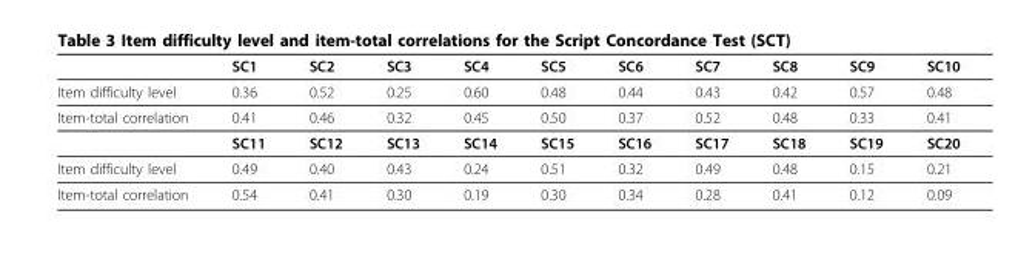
<table><thead><tr><td></td><td>SC1</td><td>SC2</td><td>SC3</td><td>SC4</td><td>SC5</td><td>SC6</td><td>SC7</td><td>SC8</td><td>SC9</td><td>SC10</td></tr></thead><tbody><tr><td>Item difficulty level</td><td>0.36</td><td>0.52</td><td>0.25</td><td>0.60</td><td>0.48</td><td>0.44</td><td>0.43</td><td>0.42</td><td>0.57</td><td>0.48</td></tr><tr><td rowspan="2">Item-total correlation</td><td>0.41</td><td>0.46</td><td>0.32</td><td>0.45</td><td>0.50</td><td>0.37</td><td>0.52</td><td>0.48</td><td>0.33</td><td>0.41</td></tr><tr><td>SC11</td><td>SC12</td><td>SC13</td><td>SC14</td><td>SC15</td><td>SC16</td><td>SC17</td><td>SC18</td><td>SC19</td><td>SC20</td></tr><tr><td>Item difficulty level</td><td>0.49</td><td>0.40</td><td>0.43</td><td>0.24</td><td>0.51</td><td>0.32</td><td>0.49</td><td>0.48</td><td>0.15</td><td>0.21</td></tr><tr><td>Item-total correlation</td><td>0.54</td><td>0.41</td><td>0.30</td><td>0.19</td><td>0.30</td><td>0.34</td><td>0.28</td><td>0.41</td><td>0.12</td><td>0.09</td></tr></tbody></table>